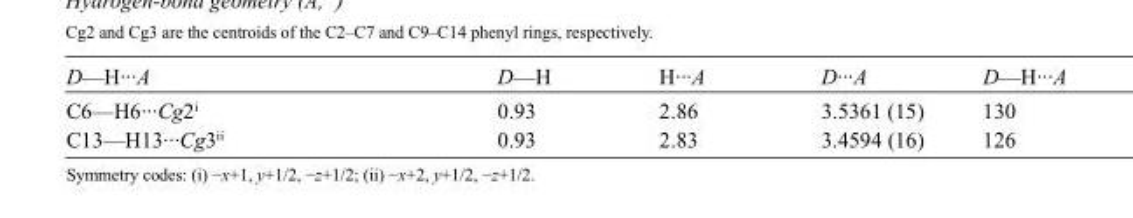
<table><tbody><tr><td>D—H···A</td><td>D—H</td><td>H···A</td><td>D···A</td><td>D—H···A</td></tr><tr><td>C6—H6···Cg2<sup>i</sup></td><td>0.93</td><td>2.86</td><td>3.5361 (15)</td><td>130</td></tr><tr><td>C13—H13···Cg3<sup>ii</sup></td><td>0.93</td><td>2.83</td><td>3.4594 (16)</td><td>126</td></tr></tbody></table>